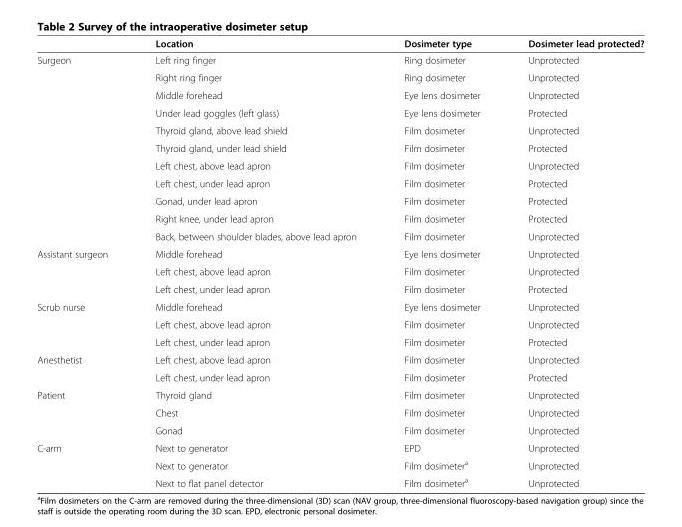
<table><thead><tr><td></td><td>Location</td><td>Dosimeter type</td><td>Dosimeter lead protected?</td></tr></thead><tbody><tr><td rowspan="11">Surgeon</td><td>Left ring finger</td><td>Ring dosimeter</td><td>Unprotected</td></tr><tr><td>Right ring finger</td><td>Ring dosimeter</td><td>Unprotected</td></tr><tr><td>Middle forehead</td><td>Eye lens dosimeter</td><td>Unprotected</td></tr><tr><td>Under lead goggles (left glass)</td><td>Eye lens dosimeter</td><td>Protected</td></tr><tr><td>Thyroid gland, above lead shield</td><td>Film dosimeter</td><td>Unprotected</td></tr><tr><td>Thyroid gland, under lead shield</td><td>Film dosimeter</td><td>Protected</td></tr><tr><td>Left chest, above lead apron</td><td>Film dosimeter</td><td>Unprotected</td></tr><tr><td>Left chest, under lead apron</td><td>Film dosimeter</td><td>Protected</td></tr><tr><td>Gonad, under lead apron</td><td>Film dosimeter</td><td>Protected</td></tr><tr><td>Right knee, under lead apron</td><td>Film dosimeter</td><td>Protected</td></tr><tr><td>Back, between shoulder blades, above lead apron</td><td>Film dosimeter</td><td>Unprotected</td></tr><tr><td rowspan="3">Assistant surgeon</td><td>Middle forehead</td><td>Eye lens dosimeter</td><td>Unprotected</td></tr><tr><td>Left chest, above lead apron</td><td>Film dosimeter</td><td>Unprotected</td></tr><tr><td>Left chest, under lead apron</td><td>Film dosimeter</td><td>Protected</td></tr><tr><td rowspan="3">Scrub nurse</td><td>Middle forehead</td><td>Eye lens dosimeter</td><td>Unprotected</td></tr><tr><td>Left chest, above lead apron</td><td>Film dosimeter</td><td>Unprotected</td></tr><tr><td>Left chest, under lead apron</td><td>Film dosimeter</td><td>Protected</td></tr><tr><td rowspan="2">Anesthetist</td><td>Left chest, above lead apron</td><td>Film dosimeter</td><td>Unprotected</td></tr><tr><td>Left chest, under lead apron</td><td>Film dosimeter</td><td>Protected</td></tr><tr><td rowspan="3">Patient</td><td>Thyroid gland</td><td>Film dosimeter</td><td>Unprotected</td></tr><tr><td>Chest</td><td>Film dosimeter</td><td>Unprotected</td></tr><tr><td>Gonad</td><td>Film dosimeter</td><td>Unprotected</td></tr><tr><td rowspan="3">C-arm</td><td>Next to generator</td><td>EPD</td><td>Unprotected</td></tr><tr><td>Next to generator</td><td>Film dosimeter<sup>a</sup></td><td>Unprotected</td></tr><tr><td>Next to flat panel detector</td><td>Film dosimeter<sup>a</sup></td><td>Unprotected</td></tr></tbody></table>